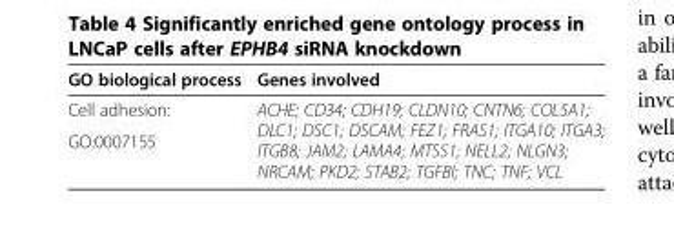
<table><thead><tr><td>GO biological process</td><td>Genes involved</td></tr></thead><tbody><tr><td>Cell adhesion:</td><td rowspan="2">ACHE; CD34; CDH19; CLDN10; CNTN6; COL5A1; DLC1; DSC1; DSCAM; FEZ1; FRAS1; ITGA10; ITGA3; ITGB8; JAM2; LAMA4; MTSS1; NELL2; NLGN3; NRCAM; PKD2; STAB2; TGFBI; TNC; TNF; VCL</td></tr><tr><td>GO:0007155</td></tr></tbody></table>